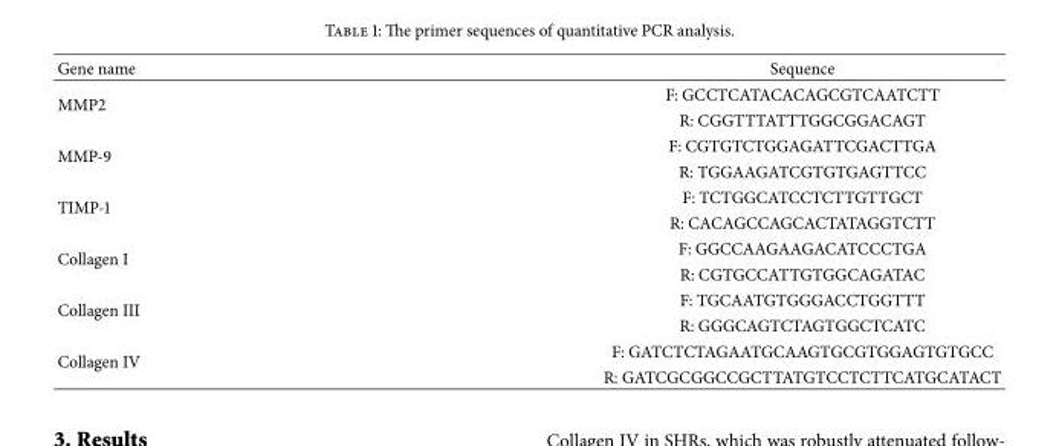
<table><thead><tr><td>Gene name</td><td>Sequence</td></tr></thead><tbody><tr><td rowspan="2">MMP2</td><td>F: GCCTCATACACAGCGTCAATCTT</td></tr><tr><td>R: CGGTTTATTTGGCGGACAGT</td></tr><tr><td rowspan="2">MMP-9</td><td>F: CGTGTCTGGAGATTCGACTTGA</td></tr><tr><td>R: TGGAAGATCGTGTGAGTTCC</td></tr><tr><td rowspan="2">TIMP-1</td><td>F: TCTGGCATCCTCTTGTTGCT</td></tr><tr><td>R: CACAGCCAGCACTATAGGTCTT</td></tr><tr><td rowspan="2">Collagen I</td><td>F: GGCCAAGAAGACATCCCTGA</td></tr><tr><td>R: CGTGCCATTGTGGCAGATAC</td></tr><tr><td rowspan="2">Collagen III</td><td>F: TGCAATGTGGGACCTGGTTT</td></tr><tr><td>R: GGGCAGTCTAGTGGCTCATC</td></tr><tr><td rowspan="2">Collagen IV</td><td>F: GATCTCTAGAATGCAAGTGCGTGGAGTGTGCC</td></tr><tr><td>R: GATCGCGGCCGCTTATGTCCTCTTCATGCATACT</td></tr></tbody></table>